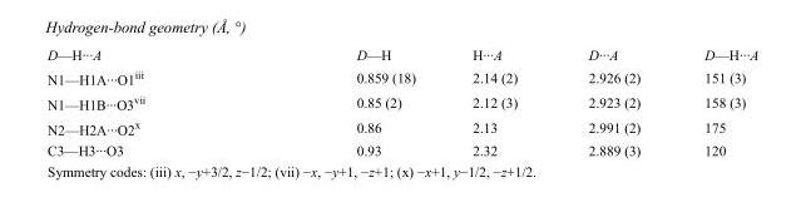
<table><tbody><tr><td>D—H···A</td><td>D—H</td><td>H···A</td><td>D···A</td><td>D—H···A</td></tr><tr><td>N1—H1A···O1<sup>iii</sup></td><td>0.859 (18)</td><td>2.14 (2)</td><td>2.926 (2)</td><td>151 (3)</td></tr><tr><td>N1—H1B···O3<sup>vii</sup></td><td>0.85 (2)</td><td>2.12 (3)</td><td>2.923 (2)</td><td>158 (3)</td></tr><tr><td>N2—H2A···O2<sup>x</sup></td><td>0.86</td><td>2.13</td><td>2.991 (2)</td><td>175</td></tr><tr><td>C3—H3···O3</td><td>0.93</td><td>2.32</td><td>2.889 (3)</td><td>120</td></tr></tbody></table>